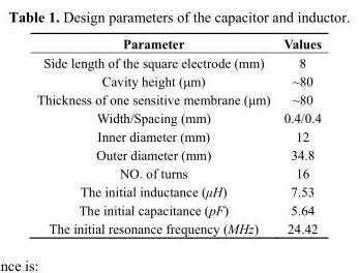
<table><thead><tr><td>Parameter</td><td>Values</td></tr></thead><tbody><tr><td>Side length of the square electrode (mm)</td><td>8</td></tr><tr><td>Cavity height (μm)</td><td>~80</td></tr><tr><td>Thickness of one sensitive membrane (μm)</td><td>~80</td></tr><tr><td>Width/Spacing (mm)</td><td>0.4/0.4</td></tr><tr><td>Inner diameter (mm)</td><td>12</td></tr><tr><td>Outer diameter (mm)</td><td>34.8</td></tr><tr><td>NO. of turns</td><td>16</td></tr><tr><td>The initial inductance (μH)</td><td>7.53</td></tr><tr><td>The initial capacitance (pF)</td><td>5.64</td></tr><tr><td>The initial resonance frequency (MHz)</td><td>24.42</td></tr></tbody></table>